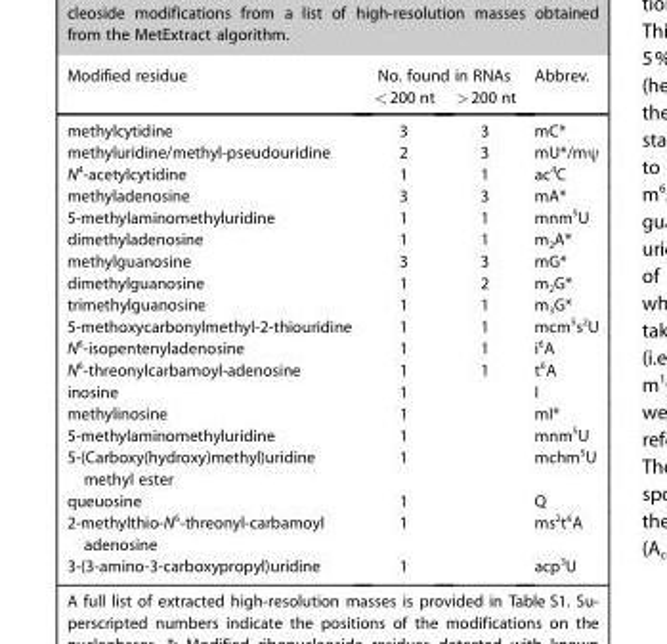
<table><thead><tr><td rowspan="2">Modified residue</td><td colspan="2">No. found in RNAs</td><td rowspan="2">Abbrev.</td></tr><tr><td>&lt;200 nt</td><td>&gt;200 nt</td></tr></thead><tbody><tr><td>methylcytidine</td><td>3</td><td>3</td><td>mC*</td></tr><tr><td>methyluridine/methyl-pseudouridine</td><td>2</td><td>3</td><td>mU*/mψ</td></tr><tr><td>N<sup>4</sup>-acetylcytidine</td><td>1</td><td>1</td><td>ac<sup>4</sup>C</td></tr><tr><td>methyladenosine</td><td>3</td><td>3</td><td>mA*</td></tr><tr><td>5-methylaminomethyluridine</td><td>1</td><td>1</td><td>mnm<sup>5</sup>U</td></tr><tr><td>dimethyladenosine</td><td>1</td><td>1</td><td>m<sub>2</sub>A*</td></tr><tr><td>methylguanosine</td><td>3</td><td>3</td><td>mG*</td></tr><tr><td>dimethylguanosine</td><td>1</td><td>2</td><td>m<sub>2</sub>G*</td></tr><tr><td>trimethylguanosine</td><td>1</td><td>1</td><td>m<sub>3</sub>G*</td></tr><tr><td>5-methoxycarbonylmethyl-2-thiouridine</td><td>1</td><td>1</td><td>mcm<sup>5</sup>s<sup>2</sup>U</td></tr><tr><td>N<sup>6</sup>-isopentenyladenosine</td><td>1</td><td>1</td><td>i<sup>6</sup>A</td></tr><tr><td>N<sup>6</sup>-threonylcarbamoyl-adenosine</td><td>1</td><td>1</td><td>t<sup>6</sup>A</td></tr><tr><td>inosine</td><td>1</td><td></td><td>I</td></tr><tr><td>methylinosine</td><td>1</td><td></td><td>mI*</td></tr><tr><td>5-methylaminomethyluridine</td><td>1</td><td></td><td>mnm<sup>5</sup>U</td></tr><tr><td>5-(Carboxy(hydroxy)methyl)uridine</td><td>1</td><td></td><td>mchm<sup>5</sup>U</td></tr><tr><td colspan="4">methyl ester</td></tr><tr><td>queuosine</td><td>1</td><td></td><td>Q</td></tr><tr><td>2-methylthio-N<sup>6</sup>-threonyl-carbamoyl</td><td>1</td><td></td><td>ms<sup>2</sup>t<sup>6</sup>A</td></tr><tr><td colspan="4">adenosine</td></tr><tr><td>3-(3-amino-3-carboxypropyl)uridine</td><td>1</td><td></td><td>acp<sup>3</sup>U</td></tr></tbody></table>